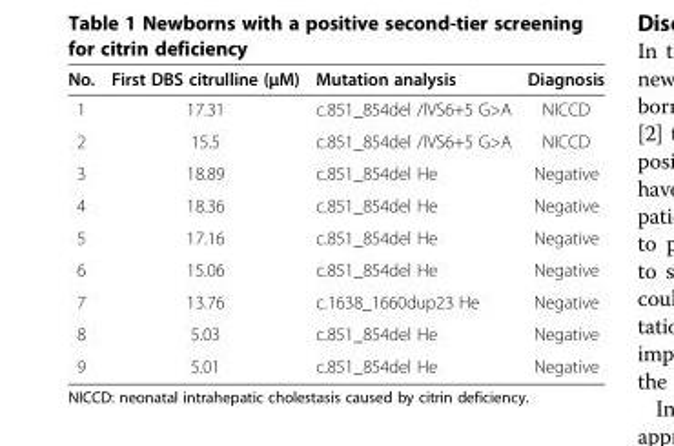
<table><thead><tr><td>No.</td><td>First DBS citrulline (μM)</td><td>Mutation analysis</td><td>Diagnosis</td></tr></thead><tbody><tr><td>1</td><td>17.31</td><td>c.851_854del /IVS6+5 G&gt;A</td><td>NICCD</td></tr><tr><td>2</td><td>15.5</td><td>c.851_854del /IVS6+5 G&gt;A</td><td>NICCD</td></tr><tr><td>3</td><td>18.89</td><td>c.851_854del He</td><td>Negative</td></tr><tr><td>4</td><td>18.36</td><td>c.851_854del He</td><td>Negative</td></tr><tr><td>5</td><td>17.16</td><td>c.851_854del He</td><td>Negative</td></tr><tr><td>6</td><td>15.06</td><td>c.851_854del He</td><td>Negative</td></tr><tr><td>7</td><td>13.76</td><td>c.1638_1660dup23 He</td><td>Negative</td></tr><tr><td>8</td><td>5.03</td><td>c.851_854del He</td><td>Negative</td></tr><tr><td>9</td><td>5.01</td><td>c.851_854del He</td><td>Negative</td></tr></tbody></table>